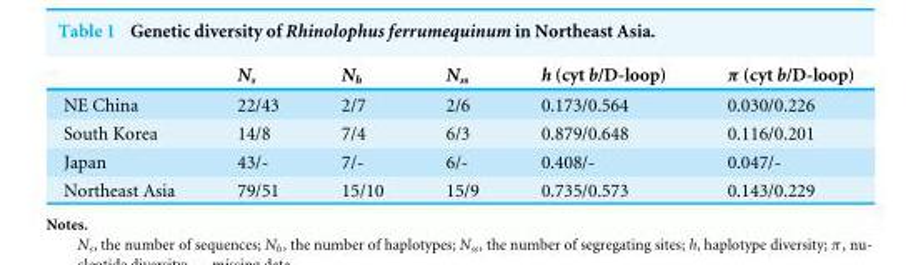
<table><thead><tr><td></td><td>N<sub>s</sub></td><td>N<sub>h</sub></td><td>N<sub>ss</sub></td><td>h (cyt b/D-loop)</td><td>π (cyt b/D-loop)</td></tr></thead><tbody><tr><td>NE China</td><td>22/43</td><td>2/7</td><td>2/6</td><td>0.173/0.564</td><td>0.030/0.226</td></tr><tr><td>South Korea</td><td>14/8</td><td>7/4</td><td>6/3</td><td>0.879/0.648</td><td>0.116/0.201</td></tr><tr><td>Japan</td><td>43/-</td><td>7/-</td><td>6/-</td><td>0.408/-</td><td>0.047/-</td></tr><tr><td>Northeast Asia</td><td>79/51</td><td>15/10</td><td>15/9</td><td>0.735/0.573</td><td>0.143/0.229</td></tr></tbody></table>